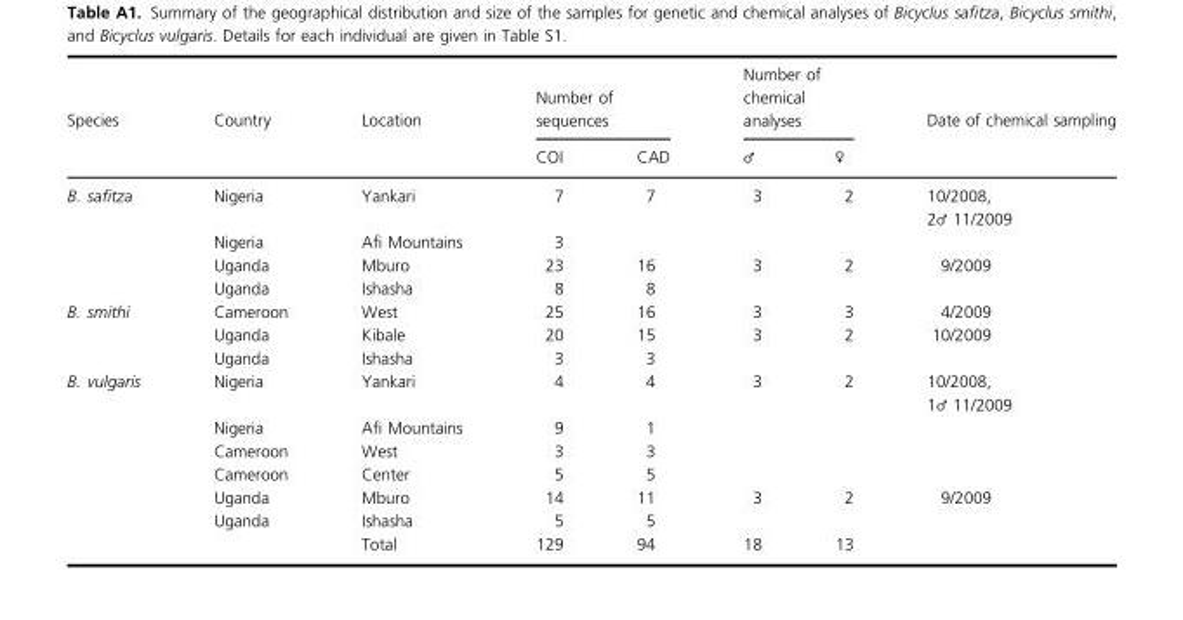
<table><thead><tr><td rowspan="2">Species</td><td rowspan="2">Country</td><td rowspan="2">Location</td><td colspan="2">Number of sequences</td><td colspan="2">Number of chemical analyses</td><td rowspan="2">Date of chemical sampling</td></tr><tr><td>COI</td><td>CAD</td><td>♂</td><td>♀</td></tr></thead><tbody><tr><td rowspan="4">B. safitza</td><td>Nigeria</td><td>Yankari</td><td>7</td><td>7</td><td>3</td><td>2</td><td>10/2008, 2♂ 11/2009</td></tr><tr><td>Nigeria</td><td>Afi Mountains</td><td>3</td><td></td><td></td><td></td><td></td></tr><tr><td>Uganda</td><td>Mburo</td><td>23</td><td>16</td><td>3</td><td>2</td><td>9/2009</td></tr><tr><td>Uganda</td><td>Ishasha</td><td>8</td><td>8</td><td></td><td></td><td></td></tr><tr><td rowspan="3">B. smithi</td><td>Cameroon</td><td>West</td><td>25</td><td>16</td><td>3</td><td>3</td><td>4/2009</td></tr><tr><td>Uganda</td><td>Kibale</td><td>20</td><td>15</td><td>3</td><td>2</td><td>10/2009</td></tr><tr><td>Uganda</td><td>Ishasha</td><td>3</td><td>3</td><td></td><td></td><td></td></tr><tr><td rowspan="7">B. vulgaris</td><td>Nigeria</td><td>Yankari</td><td>4</td><td>4</td><td>3</td><td>2</td><td>10/2008, 1♂ 11/2009</td></tr><tr><td>Nigeria</td><td>Afi Mountains</td><td>9</td><td>1</td><td></td><td></td><td></td></tr><tr><td>Cameroon</td><td>West</td><td>3</td><td>3</td><td></td><td></td><td></td></tr><tr><td>Cameroon</td><td>Center</td><td>5</td><td>5</td><td></td><td></td><td></td></tr><tr><td>Uganda</td><td>Mburo</td><td>14</td><td>11</td><td>3</td><td>2</td><td>9/2009</td></tr><tr><td>Uganda</td><td>Ishasha</td><td>5</td><td>5</td><td></td><td></td><td></td></tr><tr><td></td><td>Total</td><td>129</td><td>94</td><td>18</td><td>13</td><td></td></tr></tbody></table>